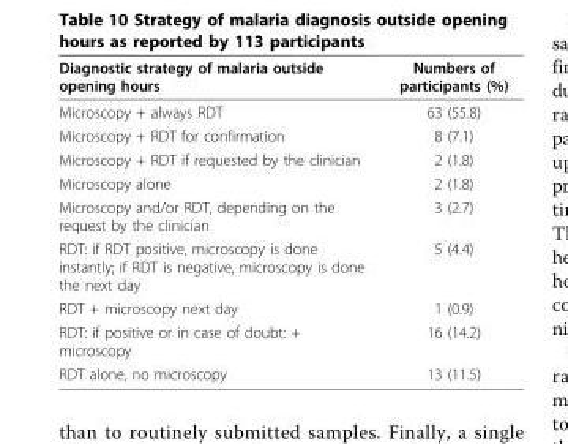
<table><thead><tr><td>Diagnostic strategy of malaria outside opening hours</td><td>Numbers of participants (%)</td></tr></thead><tbody><tr><td>Microscopy + always RDT</td><td>63 (55.8)</td></tr><tr><td>Microscopy + RDT for confirmation</td><td>8 (7.1)</td></tr><tr><td>Microscopy + RDT if requested by the clinician</td><td>2 (1.8)</td></tr><tr><td>Microscopy alone</td><td>2 (1.8)</td></tr><tr><td>Microscopy and/or RDT, depending on the request by the clinician</td><td>3 (2.7)</td></tr><tr><td>RDT: if RDT positive, microscopy is done instantly; if RDT is negative, microscopy is done the next day</td><td>5 (4.4)</td></tr><tr><td>RDT + microscopy next day</td><td>1 (0.9)</td></tr><tr><td>RDT: if positive or in case of doubt: + microscopy</td><td>16 (14.2)</td></tr><tr><td>RDT alone, no microscopy</td><td>13 (11.5)</td></tr></tbody></table>